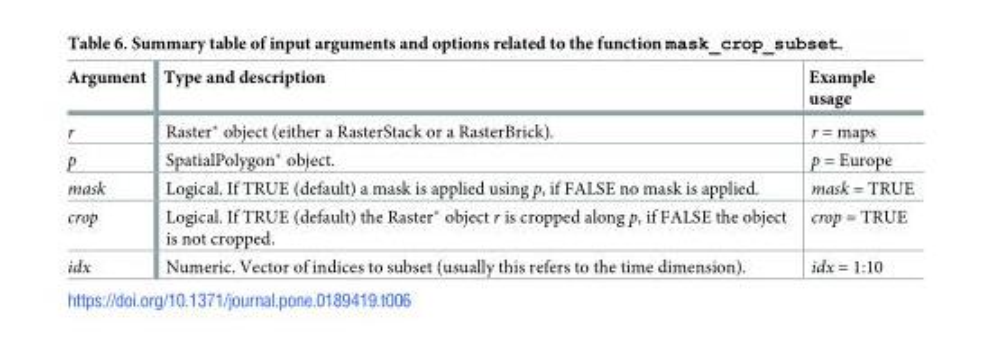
<table><thead><tr><td>Argument</td><td>Type and description</td><td>Example usage</td></tr></thead><tbody><tr><td>r</td><td>Raster* object (either a RasterStack or a RasterBrick).</td><td>r = maps</td></tr><tr><td>p</td><td>SpatialPolygon* object.</td><td>p = Europe</td></tr><tr><td>mask</td><td>Logical. If TRUE (default) a mask is applied using p, if FALSE no mask is applied.</td><td>mask = TRUE</td></tr><tr><td>crop</td><td>Logical. If TRUE (default) the Raster* object r is cropped along p, if FALSE the object is not cropped.</td><td>crop = TRUE</td></tr><tr><td>idx</td><td>Numeric. Vector of indices to subset (usually this refers to the time dimension).</td><td>idx = 1:10</td></tr></tbody></table>